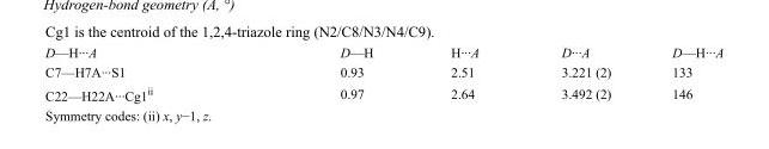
<table><tbody><tr><td>D—H···A</td><td>D—H</td><td>H···A</td><td>D···A</td><td>D—H···A</td></tr><tr><td>C7—H7A···S1</td><td>0.93</td><td>2.51</td><td>3.221 (2)</td><td>133</td></tr><tr><td>C22—H22A···Cg1<sup>ii</sup></td><td>0.97</td><td>2.64</td><td>3.492 (2)</td><td>146</td></tr></tbody></table>